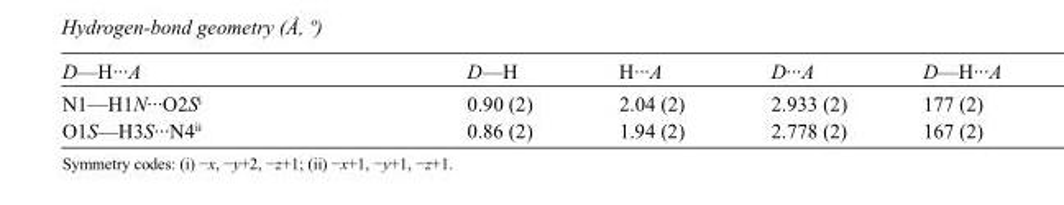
<table><tbody><tr><td>D—H···A</td><td>D—H</td><td>H···A</td><td>D···A</td><td>D—H···A</td></tr><tr><td>N1—H1N···O2S<sup>i</sup></td><td>0.90 (2)</td><td>2.04 (2)</td><td>2.933 (2)</td><td>177 (2)</td></tr><tr><td>O1S—H3S···N4<sup>ii</sup></td><td>0.86 (2)</td><td>1.94 (2)</td><td>2.778 (2)</td><td>167 (2)</td></tr></tbody></table>